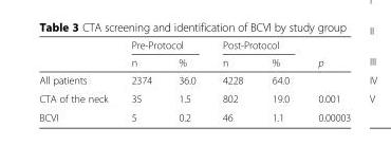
<table><thead><tr><td rowspan="2"></td><td colspan="2">Pre-Protocol</td><td colspan="2">Post-Protocol</td><td rowspan="2">p</td></tr><tr><td>n</td><td>%</td><td>n</td><td>%</td></tr></thead><tbody><tr><td>All patients</td><td>2374</td><td>36.0</td><td>4228</td><td>64.0</td><td></td></tr><tr><td>CTA of the neck</td><td>35</td><td>1.5</td><td>802</td><td>19.0</td><td>0.001</td></tr><tr><td>BCVI</td><td>5</td><td>0.2</td><td>46</td><td>1.1</td><td>0.00003</td></tr></tbody></table>